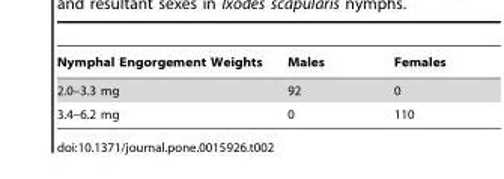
<table><thead><tr><td>Nymphal Engorgement Weights</td><td>Males</td><td>Females</td></tr></thead><tbody><tr><td>2.0–3.3 mg</td><td>92</td><td>0</td></tr><tr><td>3.4–6.2 mg</td><td>0</td><td>110</td></tr></tbody></table>